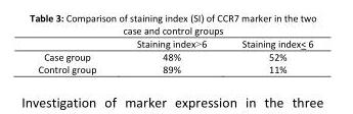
<table><thead><tr><td></td><td>Staining index&lt;6</td><td>Staining index&lt; 6</td></tr></thead><tbody><tr><td>Case group</td><td>48%</td><td>52%</td></tr><tr><td>Control group</td><td>89%</td><td>11%</td></tr></tbody></table>